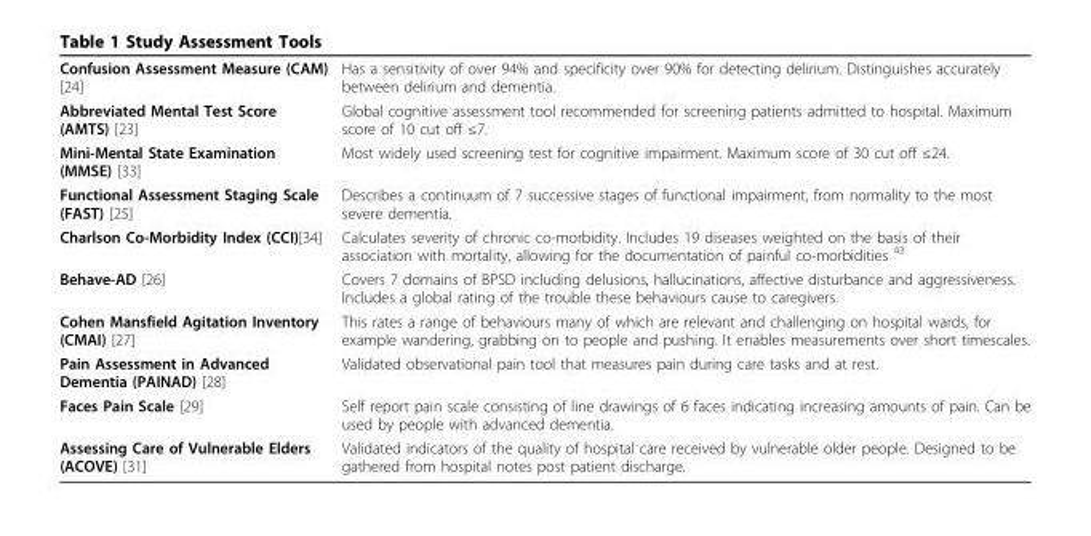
<table><tbody><tr><td>Confusion Assessment Measure (CAM) [24]</td><td>Has a sensitivity of over 94% and specificity over 90% for detecting delirium. Distinguishes accurately between delirium and dementia.</td></tr><tr><td>Abbreviated Mental Test Score (AMTS) [23]</td><td>Global cognitive assessment tool recommended for screening patients admitted to hospital. Maximum score of 10 cut off ≤7.</td></tr><tr><td>Mini-Mental State Examination (MMSE) [33]</td><td>Most widely used screening test for cognitive impairment. Maximum score of 30 cut off ≤24.</td></tr><tr><td>Functional Assessment Staging Scale (FAST) [25]</td><td>Describes a continuum of 7 successive stages of functional impairment, from normality to the most severe dementia.</td></tr><tr><td>Charlson Co-Morbidity Index (CCI)[34]</td><td>Calculates severity of chronic co-morbidity. Includes 19 diseases weighted on the basis of their association with mortality, allowing for the documentation of painful co-morbidities <sup>43</sup></td></tr><tr><td>Behave-AD [26]</td><td>Covers 7 domains of BPSD including delusions, hallucinations, affective disturbance and aggressiveness. Includes a global rating of the trouble these behaviours cause to caregivers.</td></tr><tr><td>Cohen Mansfield Agitation Inventory (CMAI) [27]</td><td>This rates a range of behaviours many of which are relevant and challenging on hospital wards, for example wandering, grabbing on to people and pushing. It enables measurements over short timescales.</td></tr><tr><td>Pain Assessment in Advanced Dementia (PAINAD) [28]</td><td>Validated observational pain tool that measures pain during care tasks and at rest.</td></tr><tr><td>Faces Pain Scale [29]</td><td>Self report pain scale consisting of line drawings of 6 faces indicating increasing amounts of pain. Can be used by people with advanced dementia.</td></tr><tr><td>Assessing Care of Vulnerable Elders (ACOVE) [31]</td><td>Validated indicators of the quality of hospital care received by vulnerable older people. Designed to be gathered from hospital notes post patient discharge.</td></tr></tbody></table>